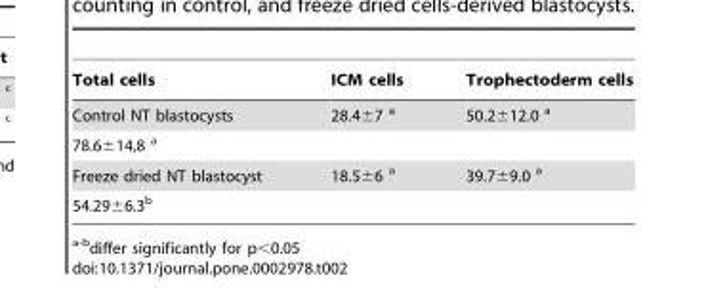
<table><thead><tr><td>Total cells</td><td>ICM cells</td><td>Trophectoderm cells</td></tr></thead><tbody><tr><td>Control NT blastocysts</td><td>28.4±7 a</td><td>50.2±12.0 a</td></tr><tr><td colspan="3">78.6±14,8 a</td></tr><tr><td>Freeze dried NT blastocyst</td><td>18.5±6 a</td><td>39.7±9.0 a</td></tr><tr><td>54.29±6.3<sup>b</sup></td><td></td><td></td></tr></tbody></table>